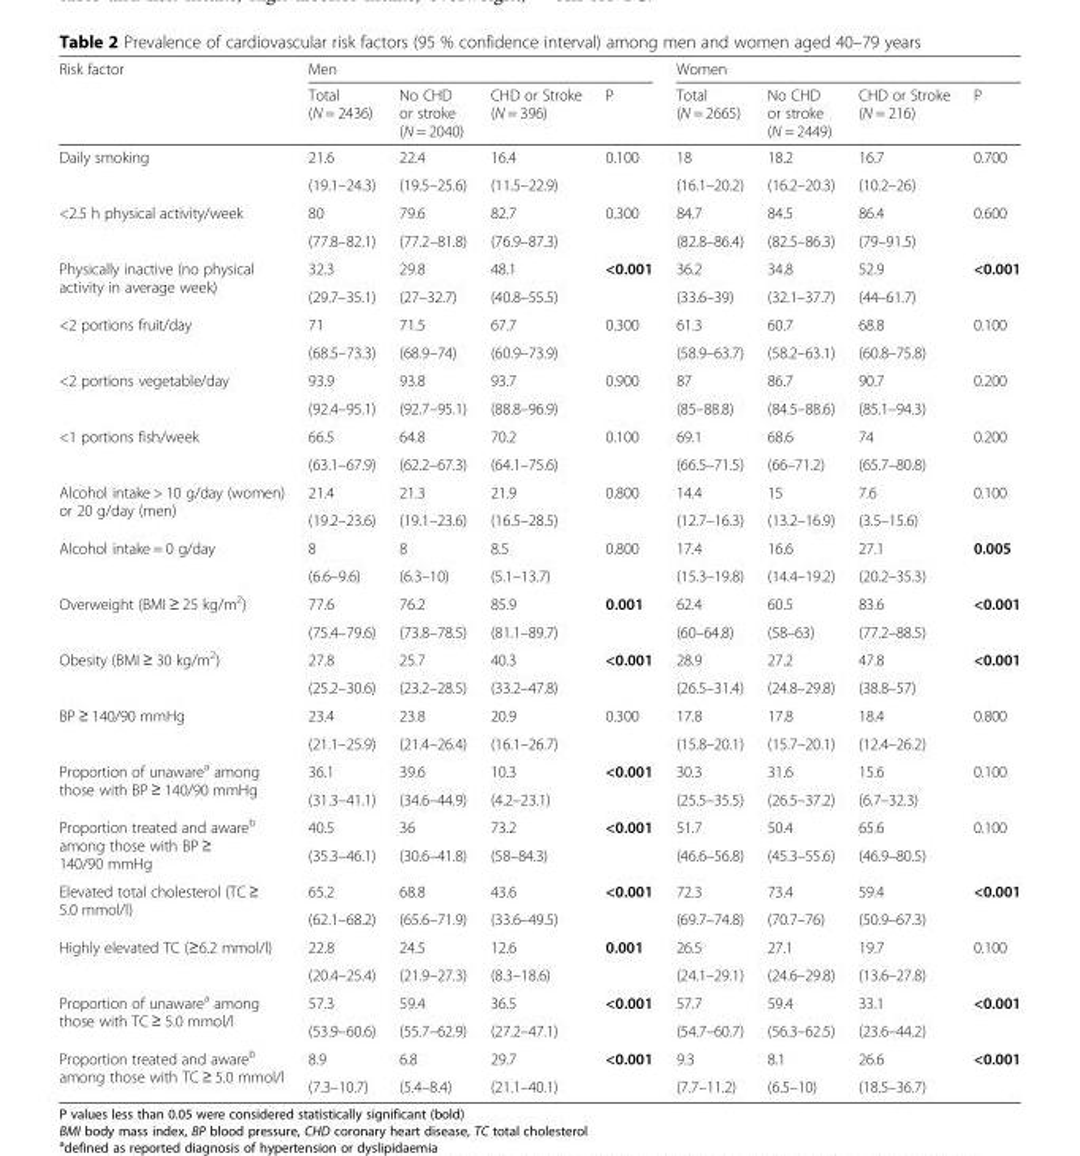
<table><thead><tr><td rowspan="2">Risk factor</td><td colspan="4">Men</td><td colspan="4">Women</td></tr><tr><td>Total (N = 2436)</td><td>No CHD or stroke (N = 2040)</td><td>CHD or Stroke (N = 396)</td><td>P</td><td>Total (N = 2665)</td><td>No CHD or stroke (N = 2449)</td><td>CHD or Stroke (N = 216)</td><td>P</td></tr></thead><tbody><tr><td rowspan="2">Daily smoking</td><td>21.6</td><td>22.4</td><td>16.4</td><td>0.100</td><td>18</td><td>18.2</td><td>16.7</td><td>0.700</td></tr><tr><td>(19.1–24.3)</td><td>(19.5–25.6)</td><td>(11.5–22.9)</td><td></td><td>(16.1–20.2)</td><td>(16.2–20.3)</td><td>(10.2–26)</td><td></td></tr><tr><td rowspan="2">&lt;2.5 h physical activity/week</td><td>80</td><td>79.6</td><td>82.7</td><td>0.300</td><td>84.7</td><td>84.5</td><td>86.4</td><td>0.600</td></tr><tr><td>(77.8–82.1)</td><td>(77.2–81.8)</td><td>(76.9–87.3)</td><td></td><td>(82.8–86.4)</td><td>(82.5–86.3)</td><td>(79–91.5)</td><td></td></tr><tr><td rowspan="2">Physically inactive (no physical activity in average week)</td><td>32.3</td><td>29.8</td><td>48.1</td><td>&lt;0.001</td><td>36.2</td><td>34.8</td><td>52.9</td><td>&lt;0.001</td></tr><tr><td>(29.7–35.1)</td><td>(27–32.7)</td><td>(40.8–55.5)</td><td></td><td>(33.6–39)</td><td>(32.1–37.7)</td><td>(44–61.7)</td><td></td></tr><tr><td rowspan="2">&lt;2 portions fruit/day</td><td>71</td><td>71.5</td><td>67.7</td><td>0.300</td><td>61.3</td><td>60.7</td><td>68.8</td><td>0.100</td></tr><tr><td>(68.5–73.3)</td><td>(68.9–74)</td><td>(60.9–73.9)</td><td></td><td>(58.9–63.7)</td><td>(58.2–63.1)</td><td>(60.8–75.8)</td><td></td></tr><tr><td rowspan="2">&lt;2 portions vegetable/day</td><td>93.9</td><td>93.8</td><td>93.7</td><td>0.900</td><td>87</td><td>86.7</td><td>90.7</td><td>0.200</td></tr><tr><td>(92.4–95.1)</td><td>(92.7–95.1)</td><td>(88.8–96.9)</td><td></td><td>(85–88.8)</td><td>(84.5–88.6)</td><td>(85.1–94.3)</td><td></td></tr><tr><td rowspan="2">&lt;1 portions fish/week</td><td>66.5</td><td>64.8</td><td>70.2</td><td>0.100</td><td>69.1</td><td>68.6</td><td>74</td><td>0.200</td></tr><tr><td>(63.1–67.9)</td><td>(62.2–67.3)</td><td>(64.1–75.6)</td><td></td><td>(66.5–71.5)</td><td>(66–71.2)</td><td>(65.7–80.8)</td><td></td></tr><tr><td rowspan="2">Alcohol intake &gt; 10 g/day (women) or 20 g/day (men)</td><td>21.4</td><td>21.3</td><td>21.9</td><td>0.800</td><td>14.4</td><td>15</td><td>7.6</td><td>0.100</td></tr><tr><td>(19.2–23.6)</td><td>(19.1–23.6)</td><td>(16.5–28.5)</td><td></td><td>(12.7–16.3)</td><td>(13.2–16.9)</td><td>(3.5–15.6)</td><td></td></tr><tr><td rowspan="2">Alcohol intake = 0 g/day</td><td>8</td><td>8</td><td>8.5</td><td>0.800</td><td>17.4</td><td>16.6</td><td>27.1</td><td>0.005</td></tr><tr><td>(6.6–9.6)</td><td>(6.3–10)</td><td>(5.1–13.7)</td><td></td><td>(15.3–19.8)</td><td>(14.4–19.2)</td><td>(20.2–35.3)</td><td></td></tr><tr><td rowspan="2">Overweight (BMI ≥ 25 kg/m<sup>2</sup>)</td><td>77.6</td><td>76.2</td><td>85.9</td><td>0.001</td><td>62.4</td><td>60.5</td><td>83.6</td><td>&lt;0.001</td></tr><tr><td>(75.4–79.6)</td><td>(73.8–78.5)</td><td>(81.1–89.7)</td><td></td><td>(60–64.8)</td><td>(58–63)</td><td>(77.2–88.5)</td><td></td></tr><tr><td rowspan="2">Obesity (BMI ≥ 30 kg/m<sup>2</sup>)</td><td>27.8</td><td>25.7</td><td>40.3</td><td>&lt;0.001</td><td>28.9</td><td>27.2</td><td>47.8</td><td>&lt;0.001</td></tr><tr><td>(25.2–30.6)</td><td>(23.2–28.5)</td><td>(33.2–47.8)</td><td></td><td>(26.5–31.4)</td><td>(24.8–29.8)</td><td>(38.8–57)</td><td></td></tr><tr><td rowspan="2">BP ≥ 140/90 mmHg</td><td>23.4</td><td>23.8</td><td>20.9</td><td>0.300</td><td>17.8</td><td>17.8</td><td>18.4</td><td>0.800</td></tr><tr><td>(21.1–25.9)</td><td>(21.4–26.4)</td><td>(16.1–26.7)</td><td></td><td>(15.8–20.1)</td><td>(15.7–20.1)</td><td>(12.4–26.2)</td><td></td></tr><tr><td rowspan="2">Proportion of unaware<sup>a</sup> among those with BP ≥ 140/90 mmHg</td><td>36.1</td><td>39.6</td><td>10.3</td><td>&lt;0.001</td><td>30.3</td><td>31.6</td><td>15.6</td><td>0.100</td></tr><tr><td>(31.3–41.1)</td><td>(34.6–44.9)</td><td>(4.2–23.1)</td><td></td><td>(25.5–35.5)</td><td>(26.5–37.2)</td><td>(6.7–32.3)</td><td></td></tr><tr><td rowspan="2">Proportion treated and aware<sup>b</sup> among those with BP ≥ 140/90 mmHg</td><td>40.5</td><td>36</td><td>73.2</td><td>&lt;0.001</td><td>51.7</td><td>50.4</td><td>65.6</td><td>0.100</td></tr><tr><td>(35.3–46.1)</td><td>(30.6–41.8)</td><td>(58–84.3)</td><td></td><td>(46.6–56.8)</td><td>(45.3–55.6)</td><td>(46.9–80.5)</td><td></td></tr><tr><td rowspan="2">Elevated total cholesterol (TC ≥ 5.0 mmol/l)</td><td>65.2</td><td>68.8</td><td>43.6</td><td>&lt;0.001</td><td>72.3</td><td>73.4</td><td>59.4</td><td>&lt;0.001</td></tr><tr><td>(62.1–68.2)</td><td>(65.6–71.9)</td><td>(33.6–49.5)</td><td></td><td>(69.7–74.8)</td><td>(70.7–76)</td><td>(50.9–67.3)</td><td></td></tr><tr><td rowspan="2">Highly elevated TC (≥6.2 mmol/l)</td><td>22.8</td><td>24.5</td><td>12.6</td><td>0.001</td><td>26.5</td><td>27.1</td><td>19.7</td><td>0.100</td></tr><tr><td>(20.4–25.4)</td><td>(21.9–27.3)</td><td>(8.3–18.6)</td><td></td><td>(24.1–29.1)</td><td>(24.6–29.8)</td><td>(13.6–27.8)</td><td></td></tr><tr><td rowspan="2">Proportion of unaware<sup>a</sup> among those with TC ≥ 5.0 mmol/l</td><td>57.3</td><td>59.4</td><td>36.5</td><td>&lt;0.001</td><td>57.7</td><td>59.4</td><td>33.1</td><td>&lt;0.001</td></tr><tr><td>(53.9–60.6)</td><td>(55.7–62.9)</td><td>(27.2–47.1)</td><td></td><td>(54.7–60.7)</td><td>(56.3–62.5)</td><td>(23.6–44.2)</td><td></td></tr><tr><td rowspan="2">Proportion treated and aware<sup>b</sup> among those with TC ≥ 5.0 mmol/l</td><td>8.9</td><td>6.8</td><td>29.7</td><td>&lt;0.001</td><td>9.3</td><td>8.1</td><td>26.6</td><td>&lt;0.001</td></tr><tr><td>(7.3–10.7)</td><td>(5.4–8.4)</td><td>(21.1–40.1)</td><td></td><td>(7.7–11.2)</td><td>(6.5–10)</td><td>(18.5–36.7)</td><td></td></tr></tbody></table>